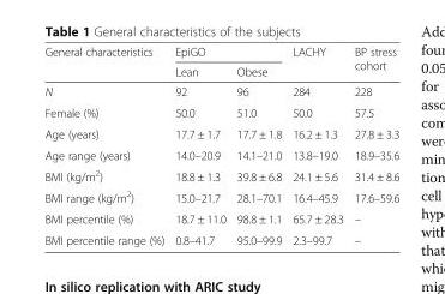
<table><thead><tr><td rowspan="2">General characteristics</td><td colspan="2">EpiGO</td><td rowspan="2">LACHY</td><td rowspan="2">BP stress cohort</td></tr><tr><td>Lean</td><td>Obese</td></tr></thead><tbody><tr><td>N</td><td>92</td><td>96</td><td>284</td><td>228</td></tr><tr><td>Female (%)</td><td>50.0</td><td>51.0</td><td>50.0</td><td>57.5</td></tr><tr><td>Age (years)</td><td>17.7 ± 1.7</td><td>17.7 ± 1.8</td><td>16.2 ± 1.3</td><td>27.8 ± 3.3</td></tr><tr><td>Age range (years)</td><td>14.0–20.9</td><td>14.1–21.0</td><td>13.8–19.0</td><td>18.9–35.6</td></tr><tr><td>BMI (kg/m<sup>2</sup>)</td><td>18.8 ± 1.3</td><td>39.8 ± 6.8</td><td>24.1 ± 5.6</td><td>31.4 ± 8.6</td></tr><tr><td>BMI range (kg/m<sup>2</sup>)</td><td>15.0–21.7</td><td>28.1–70.1</td><td>16.4–45.9</td><td>17.6–59.6</td></tr><tr><td>BMI percentile (%)</td><td>18.7 ± 11.0</td><td>98.8 ± 1.1</td><td>65.7 ± 28.3</td><td>–</td></tr><tr><td>BMI percentile range (%)</td><td>0.8–41.7</td><td>95.0–99.9</td><td>2.3–99.7</td><td>–</td></tr></tbody></table>